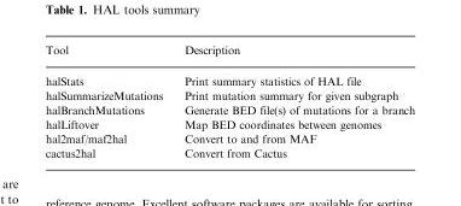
<table><thead><tr><td>Tool</td><td>Description</td></tr></thead><tbody><tr><td>halStats</td><td>Print summary statistics of HAL file</td></tr><tr><td>halSummarizeMutations</td><td>Print mutation summary for given subgraph</td></tr><tr><td>halBranchMutations</td><td>Generate BED file(s) of mutations for a branch</td></tr><tr><td>halLiftover</td><td>Map BED coordinates between genomes</td></tr><tr><td>hal2maf/maf2hal</td><td>Convert to and from MAF</td></tr><tr><td>cactus2hal</td><td>Convert from Cactus</td></tr></tbody></table>